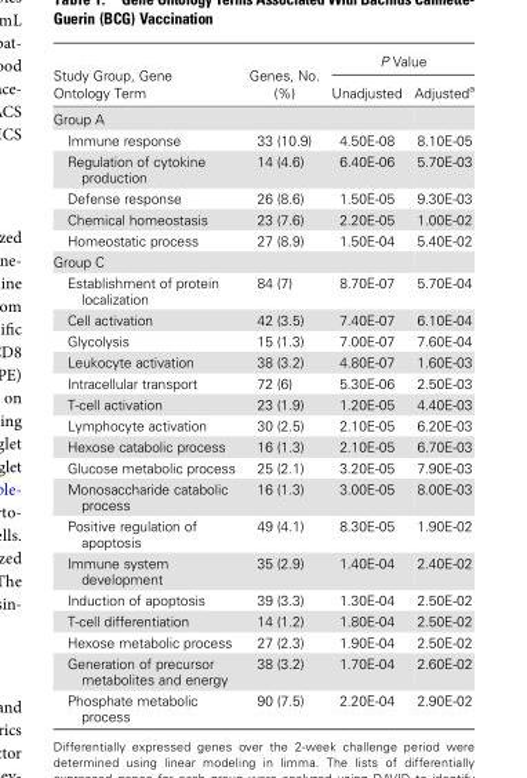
<table><thead><tr><td rowspan="2">Study Group, Gene Ontology Term</td><td rowspan="2">Genes, No. (%)</td><td colspan="2">P Value</td></tr><tr><td>Unadjusted</td><td>Adjusted<sup>a</sup></td></tr></thead><tbody><tr><td colspan="4">Group A</td></tr><tr><td>Immune response</td><td>33 (10.9)</td><td>4.50E-08</td><td>8.10E-05</td></tr><tr><td>Regulation of cytokine production</td><td>14 (4.6)</td><td>6.40E-06</td><td>5.70E-03</td></tr><tr><td>Defense response</td><td>26 (8.6)</td><td>1.50E-05</td><td>9.30E-03</td></tr><tr><td>Chemical homeostasis</td><td>23 (7.6)</td><td>2.20E-05</td><td>1.00E-02</td></tr><tr><td>Homeostatic process</td><td>27 (8.9)</td><td>1.50E-04</td><td>5.40E-02</td></tr><tr><td colspan="4">Group C</td></tr><tr><td>Establishment of protein localization</td><td>84 (7)</td><td>8.70E-07</td><td>5.70E-04</td></tr><tr><td>Cell activation</td><td>42 (3.5)</td><td>7.40E-07</td><td>6.10E-04</td></tr><tr><td>Glycolysis</td><td>15 (1.3)</td><td>7.00E-07</td><td>7.60E-04</td></tr><tr><td>Leukocyte activation</td><td>38 (3.2)</td><td>4.80E-07</td><td>1.60E-03</td></tr><tr><td>Intracellular transport</td><td>72 (6)</td><td>5.30E-06</td><td>2.50E-03</td></tr><tr><td>T-cell activation</td><td>23 (1.9)</td><td>1.20E-05</td><td>4.40E-03</td></tr><tr><td>Lymphocyte activation</td><td>30 (2.5)</td><td>2.10E-05</td><td>6.20E-03</td></tr><tr><td>Hexose catabolic process</td><td>16 (1.3)</td><td>2.10E-05</td><td>6.70E-03</td></tr><tr><td>Glucose metabolic process</td><td>25 (2.1)</td><td>3.20E-05</td><td>7.90E-03</td></tr><tr><td>Monosaccharide catabolic process</td><td>16 (1.3)</td><td>3.00E-05</td><td>8.00E-03</td></tr><tr><td>Positive regulation of apoptosis</td><td>49 (4.1)</td><td>8.30E-05</td><td>1.90E-02</td></tr><tr><td>Immune system development</td><td>35 (2.9)</td><td>1.40E-04</td><td>2.40E-02</td></tr><tr><td>Induction of apoptosis</td><td>39 (3.3)</td><td>1.30E-04</td><td>2.50E-02</td></tr><tr><td>T-cell differentiation</td><td>14 (1.2)</td><td>1.80E-04</td><td>2.50E-02</td></tr><tr><td>Hexose metabolic process</td><td>27 (2.3)</td><td>1.90E-04</td><td>2.50E-02</td></tr><tr><td>Generation of precursor metabolites and energy</td><td>38 (3.2)</td><td>1.70E-04</td><td>2.60E-02</td></tr><tr><td>Phosphate metabolic process</td><td>90 (7.5)</td><td>2.20E-04</td><td>2.90E-02</td></tr></tbody></table>